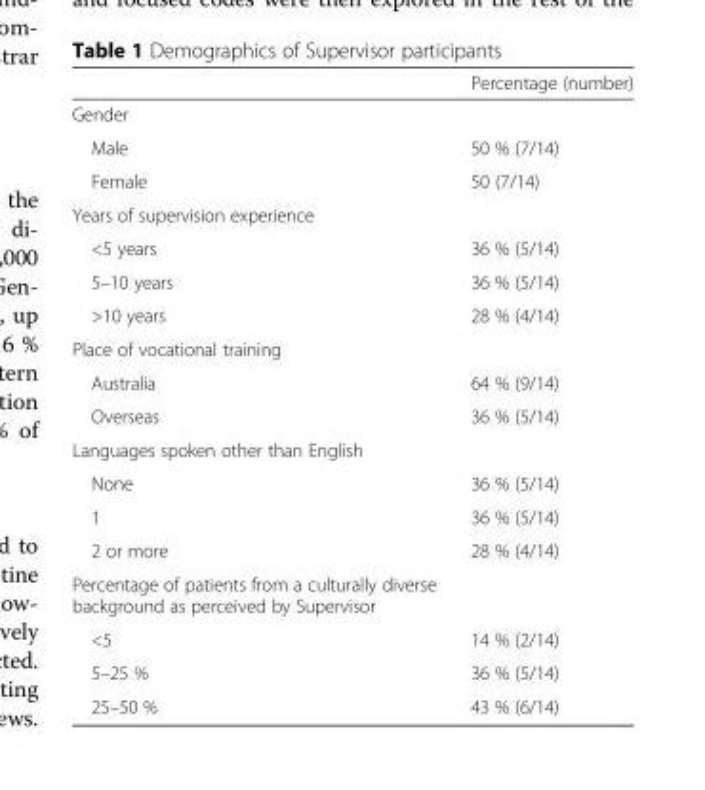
<table><thead><tr><td></td><td>Percentage (number)</td></tr></thead><tbody><tr><td colspan="2">Gender</td></tr><tr><td>Male</td><td>50 % (7/14)</td></tr><tr><td>Female</td><td>50 (7/14)</td></tr><tr><td colspan="2">Years of supervision experience</td></tr><tr><td>&lt;5 years</td><td>36 % (5/14)</td></tr><tr><td>5–10 years</td><td>36 % (5/14)</td></tr><tr><td>&gt;10 years</td><td>28 % (4/14)</td></tr><tr><td colspan="2">Place of vocational training</td></tr><tr><td>Australia</td><td>64 % (9/14)</td></tr><tr><td>Overseas</td><td>36 % (5/14)</td></tr><tr><td colspan="2">Languages spoken other than English</td></tr><tr><td>None</td><td>36 % (5/14)</td></tr><tr><td>1</td><td>36 % (5/14)</td></tr><tr><td>2 or more</td><td>28 % (4/14)</td></tr><tr><td colspan="2">Percentage of patients from a culturally diverse background as perceived by Supervisor</td></tr><tr><td>&lt;5</td><td>14 % (2/14)</td></tr><tr><td>5–25 %</td><td>36 % (5/14)</td></tr><tr><td>25–50 %</td><td>43 % (6/14)</td></tr></tbody></table>